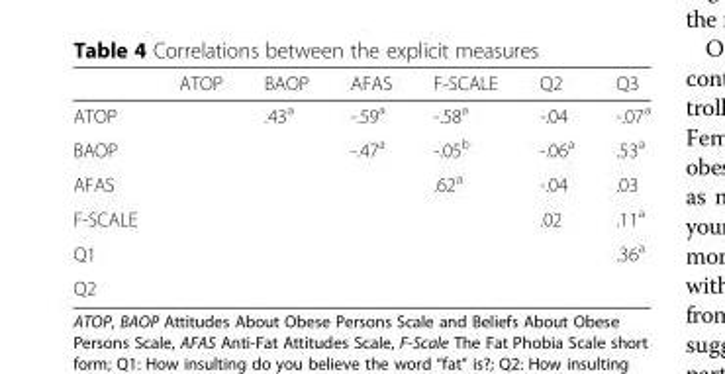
<table><thead><tr><td></td><td>ATOP</td><td>BAOP</td><td>AFAS</td><td>F-SCALE</td><td>Q2</td><td>Q3</td></tr></thead><tbody><tr><td>ATOP</td><td></td><td>.43<sup>a</sup></td><td>-.59<sup>a</sup></td><td>-.58<sup>a</sup></td><td>-.04</td><td>-.07<sup>a</sup></td></tr><tr><td>BAOP</td><td></td><td></td><td>-.47<sup>a</sup></td><td>-.05<sup>b</sup></td><td>-.06<sup>a</sup></td><td>.53<sup>a</sup></td></tr><tr><td>AFAS</td><td></td><td></td><td></td><td>.62<sup>a</sup></td><td>-.04</td><td>.03</td></tr><tr><td>F-SCALE</td><td></td><td></td><td></td><td></td><td>.02</td><td>.11<sup>a</sup></td></tr><tr><td>Q1</td><td></td><td></td><td></td><td></td><td></td><td>.36<sup>a</sup></td></tr><tr><td>Q2</td><td></td><td></td><td></td><td></td><td></td><td></td></tr></tbody></table>